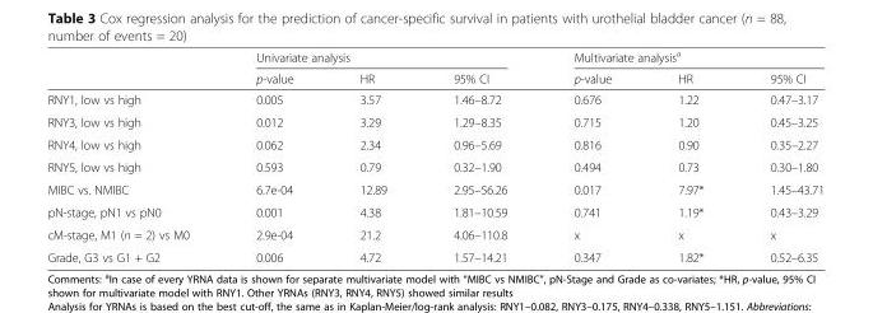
<table><thead><tr><td rowspan="2"></td><td colspan="3">Univariate analysis</td><td colspan="3">Multivariate analysis<sup>a</sup></td></tr><tr><td>p-value</td><td>HR</td><td>95% CI</td><td>p-value</td><td>HR</td><td>95% CI</td></tr></thead><tbody><tr><td>RNY1, low vs high</td><td>0.005</td><td>3.57</td><td>1.46–8.72</td><td>0.676</td><td>1.22</td><td>0.47–3.17</td></tr><tr><td>RNY3, low vs high</td><td>0.012</td><td>3.29</td><td>1.29–8.35</td><td>0.715</td><td>1.20</td><td>0.45–3.25</td></tr><tr><td>RNY4, low vs high</td><td>0.062</td><td>2.34</td><td>0.96–5.69</td><td>0.816</td><td>0.90</td><td>0.35–2.27</td></tr><tr><td>RNY5, low vs high</td><td>0.593</td><td>0.79</td><td>0.32–1.90</td><td>0.494</td><td>0.73</td><td>0.30–1.80</td></tr><tr><td>MIBC vs. NMIBC</td><td>6.7e-04</td><td>12.89</td><td>2.95–56.26</td><td>0.017</td><td>7.97*</td><td>1.45–43.71</td></tr><tr><td>pN-stage, pN1 vs pN0</td><td>0.001</td><td>4.38</td><td>1.81–10.59</td><td>0.741</td><td>1.19*</td><td>0.43–3.29</td></tr><tr><td>cM-stage, M1 (n = 2) vs M0</td><td>2.9e-04</td><td>21.2</td><td>4.06–110.8</td><td>x</td><td>x</td><td>x</td></tr><tr><td>Grade, G3 vs G1 + G2</td><td>0.006</td><td>4.72</td><td>1.57–14.21</td><td>0.347</td><td>1.82*</td><td>0.52–6.35</td></tr></tbody></table>